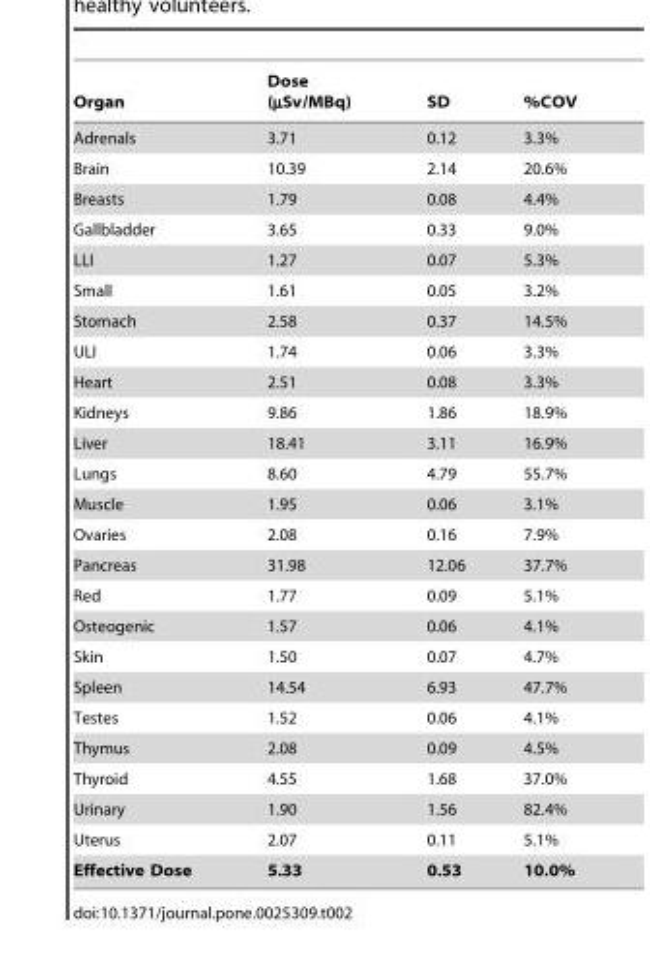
<table><thead><tr><td>Organ</td><td>Dose (µSv/MBq)</td><td>SD</td><td>%COV</td></tr></thead><tbody><tr><td>Adrenals</td><td>3.71</td><td>0.12</td><td>3.3%</td></tr><tr><td>Brain</td><td>10.39</td><td>2.14</td><td>20.6%</td></tr><tr><td>Breasts</td><td>1.79</td><td>0.08</td><td>4.4%</td></tr><tr><td>Gallbladder</td><td>3.65</td><td>0.33</td><td>9.0%</td></tr><tr><td>LLI</td><td>1.27</td><td>0.07</td><td>5.3%</td></tr><tr><td>Small</td><td>1.61</td><td>0.05</td><td>3.2%</td></tr><tr><td>Stomach</td><td>2.58</td><td>0.37</td><td>14.5%</td></tr><tr><td>ULI</td><td>1.74</td><td>0.06</td><td>3.3%</td></tr><tr><td>Heart</td><td>2.51</td><td>0.08</td><td>3.3%</td></tr><tr><td>Kidneys</td><td>9.86</td><td>1.86</td><td>18.9%</td></tr><tr><td>Liver</td><td>18.41</td><td>3.11</td><td>16.9%</td></tr><tr><td>Lungs</td><td>8.60</td><td>4.79</td><td>55.7%</td></tr><tr><td>Muscle</td><td>1.95</td><td>0.06</td><td>3.1%</td></tr><tr><td>Ovaries</td><td>2.08</td><td>0.16</td><td>7.9%</td></tr><tr><td>Pancreas</td><td>31.98</td><td>12.06</td><td>37.7%</td></tr><tr><td>Red</td><td>1.77</td><td>0.09</td><td>5.1%</td></tr><tr><td>Osteogenic</td><td>1.57</td><td>0.06</td><td>4.1%</td></tr><tr><td>Skin</td><td>1.50</td><td>0.07</td><td>4.7%</td></tr><tr><td>Spleen</td><td>14.54</td><td>6.93</td><td>47.7%</td></tr><tr><td>Testes</td><td>1.52</td><td>0.06</td><td>4.1%</td></tr><tr><td>Thymus</td><td>2.08</td><td>0.09</td><td>4.5%</td></tr><tr><td>Thyroid</td><td>4.55</td><td>1.68</td><td>37.0%</td></tr><tr><td>Urinary</td><td>1.90</td><td>1.56</td><td>82.4%</td></tr><tr><td>Uterus</td><td>2.07</td><td>0.11</td><td>5.1%</td></tr><tr><td>Effective Dose</td><td>5.33</td><td>0.53</td><td>10.0%</td></tr></tbody></table>